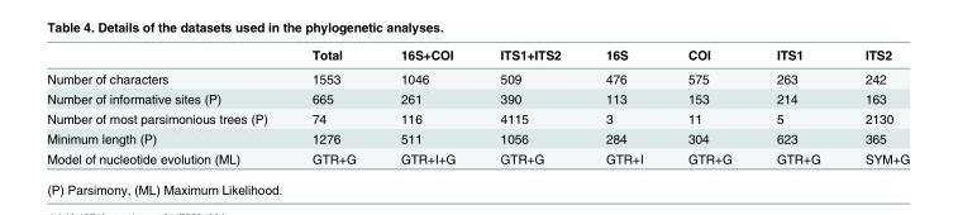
<table><thead><tr><td></td><td>Total</td><td>16S+COI</td><td>ITS1+ITS2</td><td>16S</td><td>COI</td><td>ITS1</td><td>ITS2</td></tr></thead><tbody><tr><td>Number of characters</td><td>1553</td><td>1046</td><td>509</td><td>476</td><td>575</td><td>263</td><td>242</td></tr><tr><td>Number of informative sites (P)</td><td>665</td><td>261</td><td>390</td><td>113</td><td>153</td><td>214</td><td>163</td></tr><tr><td>Number of most parsimonious trees (P)</td><td>74</td><td>116</td><td>4115</td><td>3</td><td>11</td><td>5</td><td>2130</td></tr><tr><td>Minimum length (P)</td><td>1276</td><td>511</td><td>1056</td><td>284</td><td>304</td><td>623</td><td>365</td></tr><tr><td>Model of nucleotide evolution (ML)</td><td>GTR+G</td><td>GTR+I+G</td><td>GTR+G</td><td>GTR+I</td><td>GTR+G</td><td>GTR+G</td><td>SYM+G</td></tr></tbody></table>